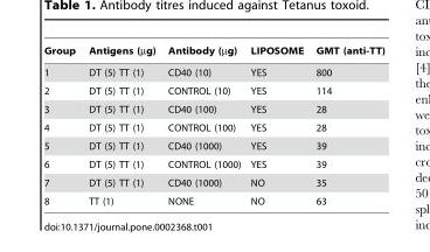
<table><thead><tr><td>Group</td><td>Antigens (µg)</td><td>Antibody (µg)</td><td>LIPOSOME</td><td>GMT (anti-TT)</td></tr></thead><tbody><tr><td>1</td><td>DT (5) TT (1)</td><td>CD40 (10)</td><td>YES</td><td>800</td></tr><tr><td>2</td><td>DT (5) TT (1)</td><td>CONTROL (10)</td><td>YES</td><td>114</td></tr><tr><td>3</td><td>DT (5) TT (1)</td><td>CD40 (100)</td><td>YES</td><td>28</td></tr><tr><td>4</td><td>DT (5) TT (1)</td><td>CONTROL (100)</td><td>YES</td><td>28</td></tr><tr><td>5</td><td>DT (5) TT (1)</td><td>CD40 (1000)</td><td>YES</td><td>39</td></tr><tr><td>6</td><td>DT (5) TT (1)</td><td>CONTROL (1000)</td><td>YES</td><td>39</td></tr><tr><td>7</td><td>DT (5) TT (1)</td><td>CD40 (1000)</td><td>NO</td><td>35</td></tr><tr><td>8</td><td>TT (1)</td><td>NONE</td><td>NO</td><td>63</td></tr></tbody></table>